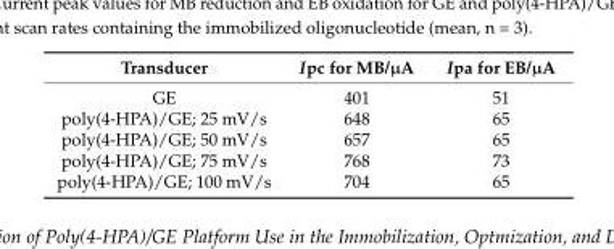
<table><thead><tr><td>Transducer</td><td>Ipc for MB/µA</td><td>Ipa for EB/µA</td></tr></thead><tbody><tr><td>GE</td><td>401</td><td>51</td></tr><tr><td>poly(4-HPA)/GE; 25 mV/s</td><td>648</td><td>65</td></tr><tr><td>poly(4-HPA)/GE; 50 mV/s</td><td>657</td><td>65</td></tr><tr><td>poly(4-HPA)/GE; 75 mV/s</td><td>768</td><td>73</td></tr><tr><td>poly(4-HPA)/GE; 100 mV/s</td><td>704</td><td>65</td></tr></tbody></table>